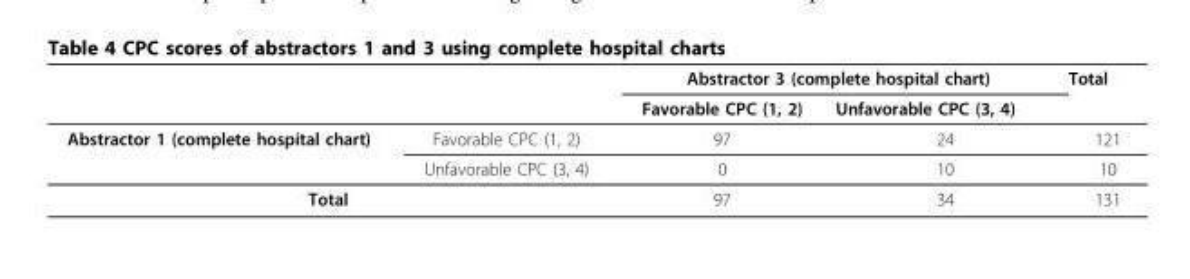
<table><thead><tr><td rowspan="2"></td><td rowspan="2"></td><td colspan="2">Abstractor 3 (complete hospital chart)</td><td rowspan="2">Total</td></tr><tr><td>Favorable CPC (1, 2)</td><td>Unfavorable CPC (3, 4)</td></tr></thead><tbody><tr><td rowspan="2">Abstractor 1 (complete hospital chart)</td><td>Favorable CPC (1, 2)</td><td>97</td><td>24</td><td>121</td></tr><tr><td>Unfavorable CPC (3, 4)</td><td>0</td><td>10</td><td>10</td></tr><tr><td colspan="2">Total</td><td>97</td><td>34</td><td>131</td></tr></tbody></table>